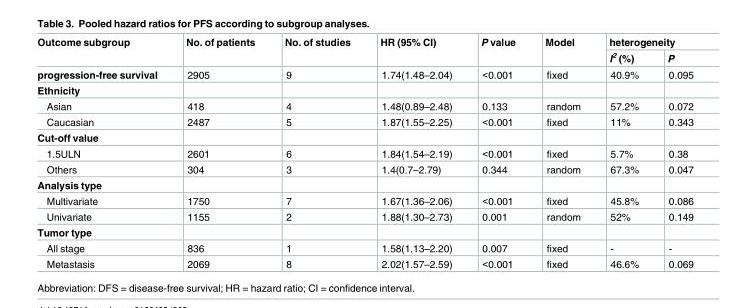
<table><thead><tr><td rowspan="2">Outcome subgroup</td><td rowspan="2">No. of patients</td><td rowspan="2">No. of studies</td><td rowspan="2">HR (95% CI)</td><td rowspan="2">P value</td><td rowspan="2">Model</td><td colspan="2">heterogeneity</td></tr><tr><td>I<sup>2</sup> (%)</td><td>P</td></tr></thead><tbody><tr><td>progression-free survival</td><td>2905</td><td>9</td><td>1.74(1.48–2.04)</td><td>&lt;0.001</td><td>fixed</td><td>40.9%</td><td>0.095</td></tr><tr><td colspan="8">Ethnicity</td></tr><tr><td>Asian</td><td>418</td><td>4</td><td>1.48(0.89–2.48)</td><td>0.133</td><td>random</td><td>57.2%</td><td>0.072</td></tr><tr><td>Caucasian</td><td>2487</td><td>5</td><td>1.87(1.55–2.25)</td><td>&lt;0.001</td><td>fixed</td><td>11%</td><td>0.343</td></tr><tr><td colspan="8">Cut-off value</td></tr><tr><td>1.5ULN</td><td>2601</td><td>6</td><td>1.84(1.54–2.19)</td><td>&lt;0.001</td><td>fixed</td><td>5.7%</td><td>0.38</td></tr><tr><td>Others</td><td>304</td><td>3</td><td>1.4(0.7–2.79)</td><td>0.344</td><td>random</td><td>67.3%</td><td>0.047</td></tr><tr><td colspan="8">Analysis type</td></tr><tr><td>Multivariate</td><td>1750</td><td>7</td><td>1.67(1.36–2.06)</td><td>&lt;0.001</td><td>fixed</td><td>45.8%</td><td>0.086</td></tr><tr><td>Univariate</td><td>1155</td><td>2</td><td>1.88(1.30–2.73)</td><td>0.001</td><td>random</td><td>52%</td><td>0.149</td></tr><tr><td colspan="8">Tumor type</td></tr><tr><td>All stage</td><td>836</td><td>1</td><td>1.58(1.13–2.20)</td><td>0.007</td><td>fixed</td><td>-</td><td>-</td></tr><tr><td>Metastasis</td><td>2069</td><td>8</td><td>2.02(1.57–2.59)</td><td>&lt;0.001</td><td>fixed</td><td>46.6%</td><td>0.069</td></tr></tbody></table>